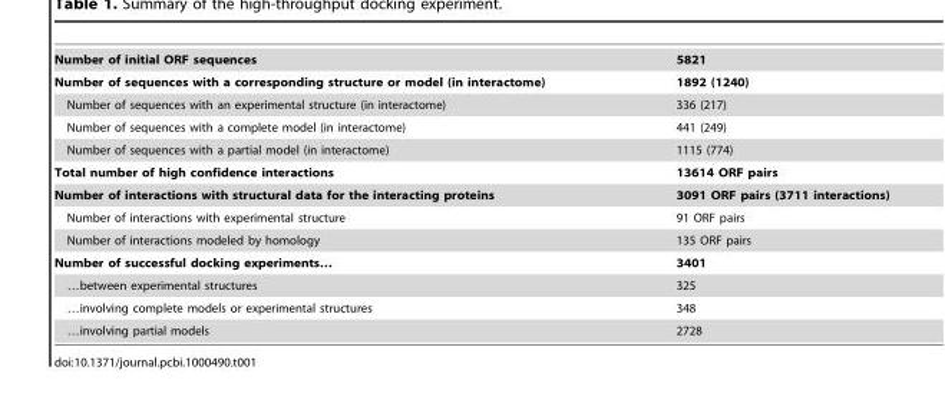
<table><tbody><tr><td>Number of initial ORF sequences</td><td>5821</td></tr><tr><td>Number of sequences with a corresponding structure or model (in interactome)</td><td>1892 (1240)</td></tr><tr><td>Number of sequences with an experimental structure (in interactome)</td><td>336 (217)</td></tr><tr><td>Number of sequences with a complete model (in interactome)</td><td>441 (249)</td></tr><tr><td>Number of sequences with a partial model (in interactome)</td><td>1115 (774)</td></tr><tr><td>Total number of high confidence interactions</td><td>13614 ORF pairs</td></tr><tr><td>Number of interactions with structural data for the interacting proteins</td><td>3091 ORF pairs (3711 interactions)</td></tr><tr><td>Number of interactions with experimental structure</td><td>91 ORF pairs</td></tr><tr><td>Number of interactions modeled by homology</td><td>135 ORF pairs</td></tr><tr><td>Number of successful docking experiments…</td><td>3401</td></tr><tr><td>…between experimental structures</td><td>325</td></tr><tr><td>…involving complete models or experimental structures</td><td>348</td></tr><tr><td>…involving partial models</td><td>2728</td></tr></tbody></table>